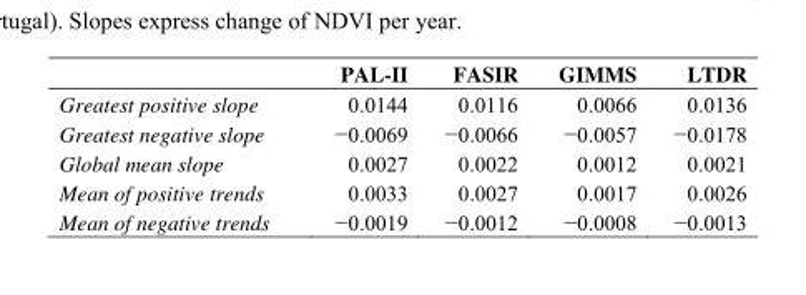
<table><thead><tr><td></td><td>PAL-II</td><td>FASIR</td><td>GIMMS</td><td>LTDR</td></tr></thead><tbody><tr><td>Greatest positive slope</td><td>0.0144</td><td>0.0116</td><td>0.0066</td><td>0.0136</td></tr><tr><td>Greatest negative slope</td><td>−0.0069</td><td>−0.0066</td><td>−0.0057</td><td>−0.0178</td></tr><tr><td>Global mean slope</td><td>0.0027</td><td>0.0022</td><td>0.0012</td><td>0.0021</td></tr><tr><td>Mean of positive trends</td><td>0.0033</td><td>0.0027</td><td>0.0017</td><td>0.0026</td></tr><tr><td>Mean of negative trends</td><td>−0.0019</td><td>−0.0012</td><td>−0.0008</td><td>−0.0013</td></tr></tbody></table>